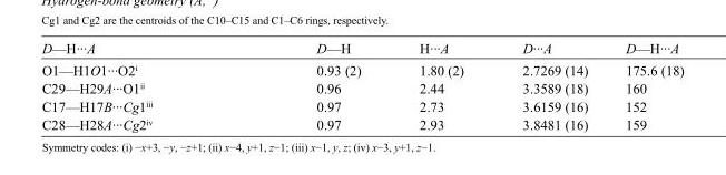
<table><tbody><tr><td>D—H···A</td><td>D—H</td><td>H···A</td><td>D···A</td><td>D—H···A</td></tr><tr><td>O1—H1O1···O2<sup>i</sup></td><td>0.93 (2)</td><td>1.80 (2)</td><td>2.7269 (14)</td><td>175.6 (18)</td></tr><tr><td>C29—H29A···O1<sup>ii</sup></td><td>0.96</td><td>2.44</td><td>3.3589 (18)</td><td>160</td></tr><tr><td>C17—H17B···Cg1<sup>iii</sup></td><td>0.97</td><td>2.73</td><td>3.6159 (16)</td><td>152</td></tr><tr><td>C28—H28A···Cg2<sup>iv</sup></td><td>0.97</td><td>2.93</td><td>3.8481 (16)</td><td>159</td></tr></tbody></table>